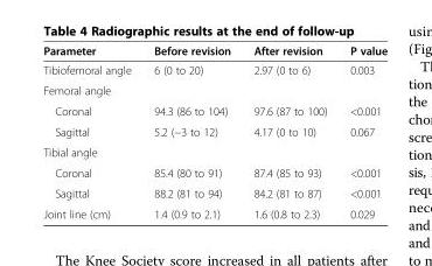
<table><thead><tr><td>Parameter</td><td>Before revision</td><td>After revision</td><td>P value</td></tr></thead><tbody><tr><td>Tibiofemoral angle</td><td>6 (0 to 20)</td><td>2.97 (0 to 6)</td><td>0.003</td></tr><tr><td colspan="4">Femoral angle</td></tr><tr><td>Coronal</td><td>94.3 (86 to 104)</td><td>97.6 (87 to 100)</td><td>&lt;0.001</td></tr><tr><td>Sagittal</td><td>5.2 (−3 to 12)</td><td>4.17 (0 to 10)</td><td>0.067</td></tr><tr><td colspan="4">Tibial angle</td></tr><tr><td>Coronal</td><td>85.4 (80 to 91)</td><td>87.4 (85 to 93)</td><td>&lt;0.001</td></tr><tr><td>Sagittal</td><td>88.2 (81 to 94)</td><td>84.2 (81 to 87)</td><td>&lt;0.001</td></tr><tr><td>Joint line (cm)</td><td>1.4 (0.9 to 2.1)</td><td>1.6 (0.8 to 2.3)</td><td>0.029</td></tr></tbody></table>